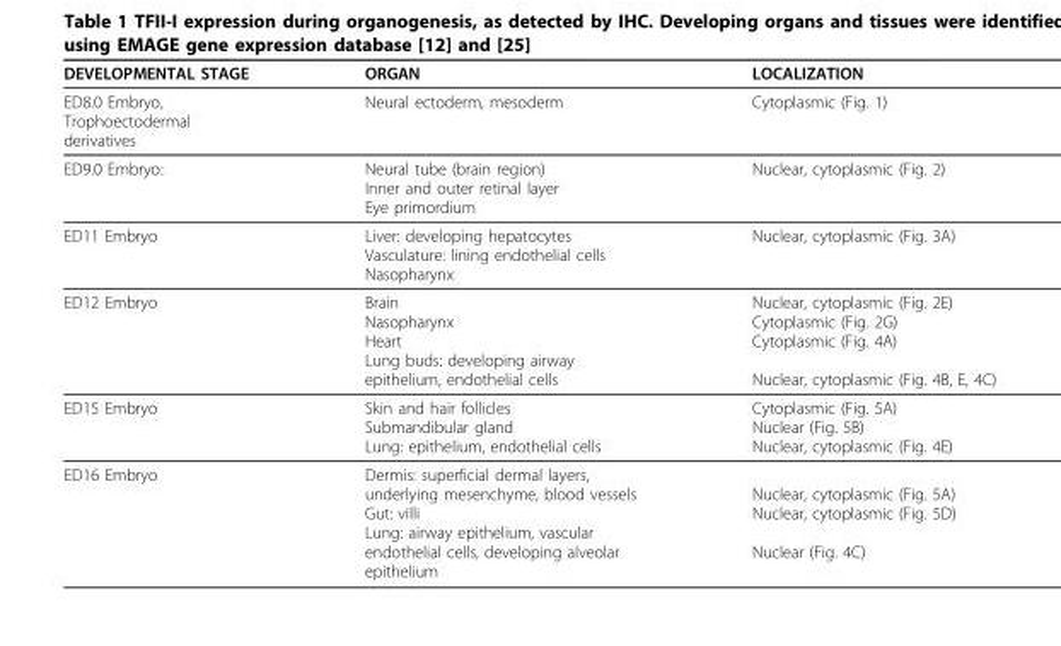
<table><thead><tr><td>DEVELOPMENTAL STAGE</td><td>ORGAN</td><td>LOCALIZATION</td></tr></thead><tbody><tr><td>ED8.0 Embryo, Trophoectodermal derivatives</td><td>Neural ectoderm, mesoderm</td><td>Cytoplasmic (Fig. 1)</td></tr><tr><td>ED9.0 Embryo:</td><td>Neural tube (brain region) Inner and outer retinal layer Eye primordium</td><td>Nuclear, cytoplasmic (Fig. 2)</td></tr><tr><td>ED11 Embryo</td><td>Liver: developing hepatocytes Vasculature: lining endothelial cells Nasopharynx</td><td>Nuclear, cytoplasmic (Fig. 3A)</td></tr><tr><td>ED12 Embryo</td><td>Brain Nasopharynx Heart Lung buds: developing airway epithelium, endothelial cells</td><td>Nuclear, cytoplasmic (Fig. 2E) Cytoplasmic (Fig. 2G) Cytoplasmic (Fig. 4A) Nuclear, cytoplasmic (Fig. 4B, E, 4C)</td></tr><tr><td>ED15 Embryo</td><td>Skin and hair follicles Submandibular gland Lung: epithelium, endothelial cells</td><td>Cytoplasmic (Fig. 5A) Nuclear (Fig. 5B) Nuclear, cytoplasmic (Fig. 4E)</td></tr><tr><td>ED16 Embryo</td><td>Dermis: superficial dermal layers, underlying mesenchyme, blood vessels Gut: villi Lung: airway epithelium, vascular endothelial cells, developing alveolar epithelium</td><td>Nuclear, cytoplasmic (Fig. 5A) Nuclear, cytoplasmic (Fig. 5D) Nuclear (Fig. 4C)</td></tr></tbody></table>